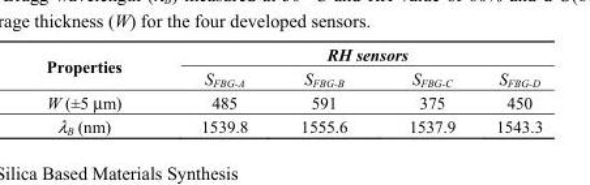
<table><thead><tr><td rowspan="2">Properties</td><td colspan="4">RH sensors</td></tr><tr><td>S<sub>FBG-A</sub></td><td>S<sub>FBG-B</sub></td><td>S<sub>FBG-C</sub></td><td>S<sub>FBG-D</sub></td></tr></thead><tbody><tr><td>W (±5 μm)</td><td>485</td><td>591</td><td>375</td><td>450</td></tr><tr><td>λ<sub>B</sub> (nm)</td><td>1539.8</td><td>1555.6</td><td>1537.9</td><td>1543.3</td></tr></tbody></table>